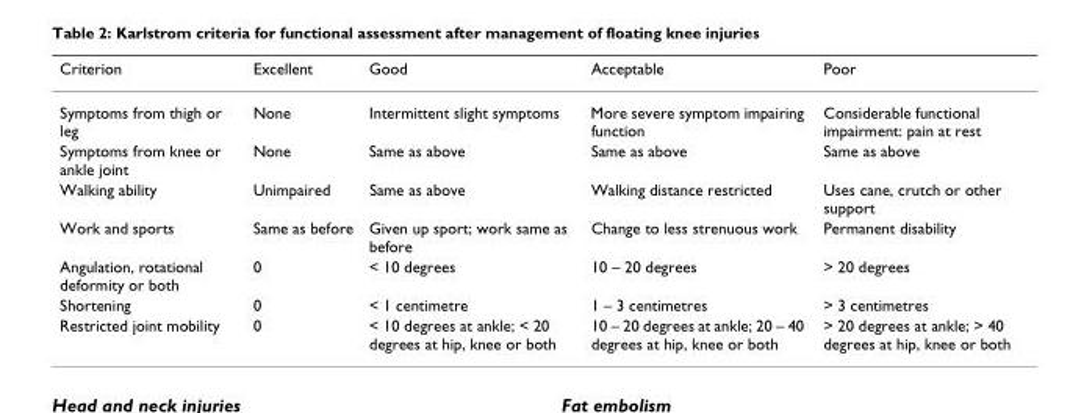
<table><thead><tr><td>Criterion</td><td>Excellent</td><td>Good</td><td>Acceptable</td><td>Poor</td></tr></thead><tbody><tr><td>Symptoms from thigh or leg</td><td>None</td><td>Intermittent slight symptoms</td><td>More severe symptom impairing function</td><td>Considerable functional impairment: pain at rest</td></tr><tr><td>Symptoms from knee or ankle joint</td><td>None</td><td>Same as above</td><td>Same as above</td><td>Same as above</td></tr><tr><td>Walking ability</td><td>Unimpaired</td><td>Same as above</td><td>Walking distance restricted</td><td>Uses cane, crutch or other support</td></tr><tr><td>Work and sports</td><td>Same as before</td><td>Given up sport; work same as before</td><td>Change to less strenuous work</td><td>Permanent disability</td></tr><tr><td>Angulation, rotational deformity or both</td><td>0</td><td>&lt; 10 degrees</td><td>10 – 20 degrees</td><td>&gt; 20 degrees</td></tr><tr><td>Shortening</td><td>0</td><td>&lt; 1 centimetre</td><td>1 – 3 centimetres</td><td>&gt; 3 centimetres</td></tr><tr><td>Restricted joint mobility</td><td>0</td><td>&lt; 10 degrees at ankle; &lt; 20 degrees at hip, knee or both</td><td>10 – 20 degrees at ankle; 20 – 40 degrees at hip, knee or both</td><td>&gt; 20 degrees at ankle; &gt; 40 degrees at hip, knee or both</td></tr></tbody></table>